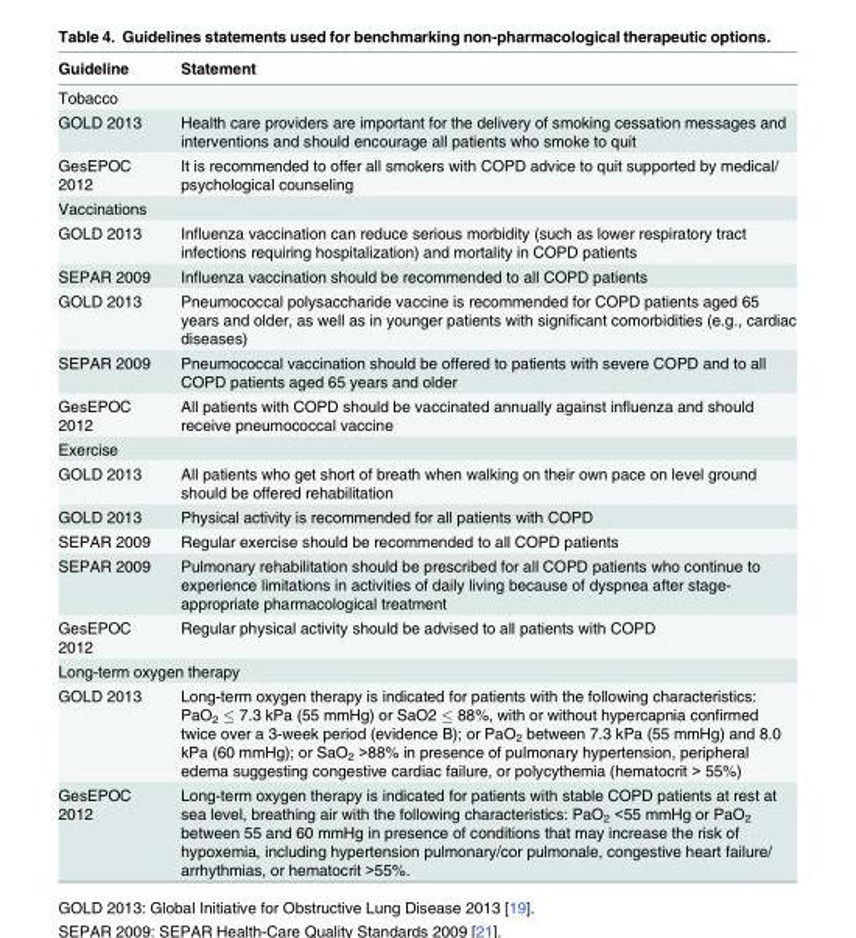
<table><thead><tr><td>Guideline</td><td>Statement</td></tr></thead><tbody><tr><td colspan="2">Tobacco</td></tr><tr><td>GOLD 2013</td><td>Health care providers are important for the delivery of smoking cessation messages and interventions and should encourage all patients who smoke to quit</td></tr><tr><td>GesEPOC 2012</td><td>It is recommended to offer all smokers with COPD advice to quit supported by medical/ psychological counseling</td></tr><tr><td colspan="2">Vaccinations</td></tr><tr><td>GOLD 2013</td><td>Influenza vaccination can reduce serious morbidity (such as lower respiratory tract infections requiring hospitalization) and mortality in COPD patients</td></tr><tr><td>SEPAR 2009</td><td>Influenza vaccination should be recommended to all COPD patients</td></tr><tr><td>GOLD 2013</td><td>Pneumococcal polysaccharide vaccine is recommended for COPD patients aged 65 years and older, as well as in younger patients with significant comorbidities (e.g., cardiac diseases)</td></tr><tr><td>SEPAR 2009</td><td>Pneumococcal vaccination should be offered to patients with severe COPD and to all COPD patients aged 65 years and older</td></tr><tr><td>GesEPOC 2012</td><td>All patients with COPD should be vaccinated annually against influenza and should receive pneumococcal vaccine</td></tr><tr><td colspan="2">Exercise</td></tr><tr><td>GOLD 2013</td><td>All patients who get short of breath when walking on their own pace on level ground should be offered rehabilitation</td></tr><tr><td>GOLD 2013</td><td>Physical activity is recommended for all patients with COPD</td></tr><tr><td>SEPAR 2009</td><td>Regular exercise should be recommended to all COPD patients</td></tr><tr><td>SEPAR 2009</td><td>Pulmonary rehabilitation should be prescribed for all COPD patients who continue to experience limitations in activities of daily living because of dyspnea after stage- appropriate pharmacological treatment</td></tr><tr><td>GesEPOC 2012</td><td>Regular physical activity should be advised to all patients with COPD</td></tr><tr><td colspan="2">Long-term oxygen therapy</td></tr><tr><td>GOLD 2013</td><td>Long-term oxygen therapy is indicated for patients with the following characteristics: PaO<sub>2</sub> ≤ 7.3 kPa (55 mmHg) or SaO2 ≤ 88%, with or without hypercapnia confirmed twice over a 3-week period (evidence B); or PaO<sub>2</sub> between 7.3 kPa (55 mmHg) and 8.0 kPa (60 mmHg); or SaO<sub>2</sub> &gt;88% in presence of pulmonary hypertension, peripheral edema suggesting congestive cardiac failure, or polycythemia (hematocrit &gt; 55%)</td></tr><tr><td>GesEPOC 2012</td><td>Long-term oxygen therapy is indicated for patients with stable COPD patients at rest at sea level, breathing air with the following characteristics: PaO<sub>2</sub> &lt;55 mmHg or PaO<sub>2</sub> between 55 and 60 mmHg in presence of conditions that may increase the risk of hypoxemia, including hypertension pulmonary/cor pulmonale, congestive heart failure/ arrhythmias, or hematocrit &gt;55%.</td></tr></tbody></table>